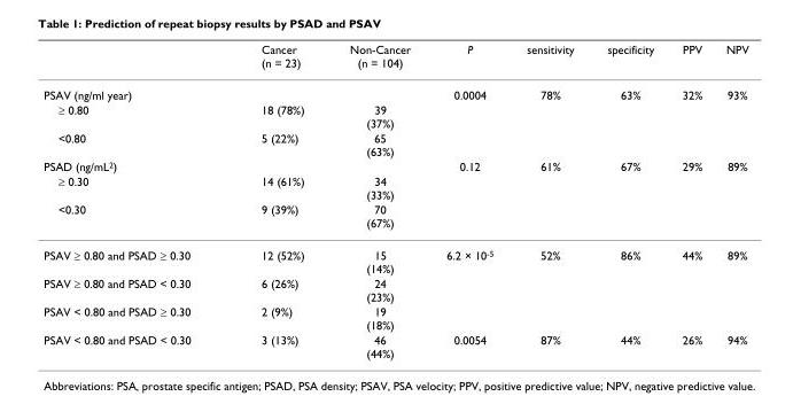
<table><thead><tr><td></td><td>Cancer (n = 23)</td><td>Non-Cancer (n = 104)</td><td>P</td><td>sensitivity</td><td>specificity</td><td>PPV</td><td>NPV</td></tr></thead><tbody><tr><td>PSAV (ng/ml year)</td><td></td><td></td><td>0.0004</td><td>78%</td><td>63%</td><td>32%</td><td>93%</td></tr><tr><td>≥ 0.80</td><td>18 (78%)</td><td>39 (37%)</td><td></td><td></td><td></td><td></td><td></td></tr><tr><td>&lt;0.80</td><td>5 (22%)</td><td>65 (63%)</td><td></td><td></td><td></td><td></td><td></td></tr><tr><td>PSAD (ng/mL<sup>2</sup>)</td><td></td><td></td><td>0.12</td><td>61%</td><td>67%</td><td>29%</td><td>89%</td></tr><tr><td>≥ 0.30</td><td>14 (61%)</td><td>34 (33%)</td><td></td><td></td><td></td><td></td><td></td></tr><tr><td>&lt;0.30</td><td>9 (39%)</td><td>70 (67%)</td><td></td><td></td><td></td><td></td><td></td></tr><tr><td>PSAV ≥ 0.80 and PSAD ≥ 0.30</td><td>12 (52%)</td><td>15 (14%)</td><td>6.2 × 10<sup>-5</sup></td><td>52%</td><td>86%</td><td>44%</td><td>89%</td></tr><tr><td>PSAV ≥ 0.80 and PSAD &lt; 0.30</td><td>6 (26%)</td><td>24 (23%)</td><td></td><td></td><td></td><td></td><td></td></tr><tr><td>PSAV &lt; 0.80 and PSAD ≥ 0.30</td><td>2 (9%)</td><td>19 (18%)</td><td></td><td></td><td></td><td></td><td></td></tr><tr><td>PSAV &lt; 0.80 and PSAD &lt; 0.30</td><td>3 (13%)</td><td>46 (44%)</td><td>0.0054</td><td>87%</td><td>44%</td><td>26%</td><td>94%</td></tr></tbody></table>